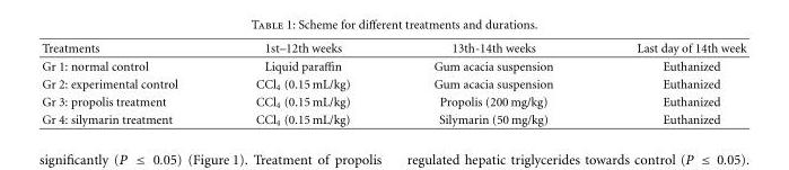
<table><thead><tr><td>Treatments</td><td>1st–12th weeks</td><td>13th-14th weeks</td><td>Last day of 14th week</td></tr></thead><tbody><tr><td>Gr 1: normal control</td><td>Liquid paraffin</td><td>Gum acacia suspension</td><td>Euthanized</td></tr><tr><td>Gr 2: experimental control</td><td>CCl<sub>4</sub> (0.15 mL/kg)</td><td>Gum acacia suspension</td><td>Euthanized</td></tr><tr><td>Gr 3: propolis treatment</td><td>CCl<sub>4</sub> (0.15 mL/kg)</td><td>Propolis (200 mg/kg)</td><td>Euthanized</td></tr><tr><td>Gr 4: silymarin treatment</td><td>CCl<sub>4</sub> (0.15 mL/kg)</td><td>Silymarin (50 mg/kg)</td><td>Euthanized</td></tr></tbody></table>